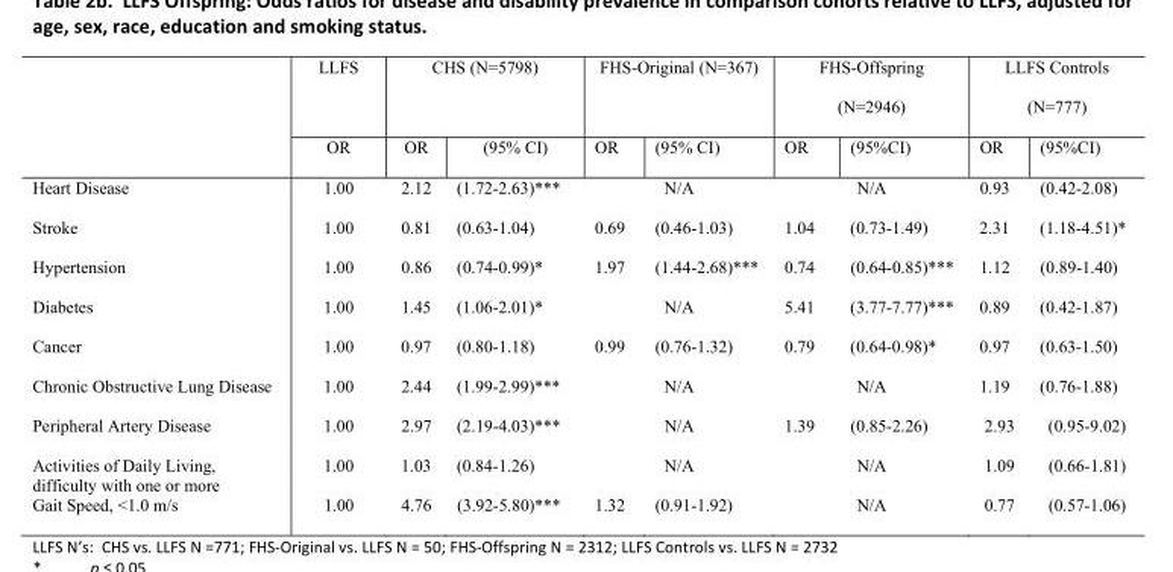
<table><thead><tr><td rowspan="2"></td><td rowspan="2">LLFS OR</td><td colspan="2">CHS (N=5798)</td><td colspan="2">FHS-Original (N=367)</td><td colspan="2">FHS-Offspring (N=2946)</td><td colspan="2">LLFS Controls (N=777)</td></tr><tr><td>OR</td><td>(95% CI)</td><td>OR</td><td>(95% CI)</td><td>OR</td><td>(95%CI)</td><td>OR</td><td>(95%CI)</td></tr></thead><tbody><tr><td>Heart Disease</td><td>1.00</td><td>2.12</td><td>(1.72-2.63)***</td><td></td><td>N/A</td><td></td><td>N/A</td><td>0.93</td><td>(0.42-2.08)</td></tr><tr><td>Stroke</td><td>1.00</td><td>0.81</td><td>(0.63-1.04)</td><td>0.69</td><td>(0.46-1.03)</td><td>1.04</td><td>(0.73-1.49)</td><td>2.31</td><td>(1.18-4.51)*</td></tr><tr><td>Hypertension</td><td>1.00</td><td>0.86</td><td>(0.74-0.99)*</td><td>1.97</td><td>(1.44-2.68)***</td><td>0.74</td><td>(0.64-0.85)***</td><td>1.12</td><td>(0.89-1.40)</td></tr><tr><td>Diabetes</td><td>1.00</td><td>1.45</td><td>(1.06-2.01)*</td><td></td><td>N/A</td><td>5.41</td><td>(3.77-7.77)***</td><td>0.89</td><td>(0.42-1.87)</td></tr><tr><td>Cancer</td><td>1.00</td><td>0.97</td><td>(0.80-1.18)</td><td>0.99</td><td>(0.76-1.32)</td><td>0.79</td><td>(0.64-0.98)*</td><td>0.97</td><td>(0.63-1.50)</td></tr><tr><td>Chronic Obstructive Lung Disease</td><td>1.00</td><td>2.44</td><td>(1.99-2.99)***</td><td></td><td>N/A</td><td></td><td>N/A</td><td>1.19</td><td>(0.76-1.88)</td></tr><tr><td>Peripheral Artery Disease</td><td>1.00</td><td>2.97</td><td>(2.19-4.03)***</td><td></td><td>N/A</td><td>1.39</td><td>(0.85-2.26)</td><td>2.93</td><td>(0.95-9.02)</td></tr><tr><td>Activities of Daily Living, difficulty with one or more</td><td>1.00</td><td>1.03</td><td>(0.84-1.26)</td><td></td><td>N/A</td><td></td><td>N/A</td><td>1.09</td><td>(0.66-1.81)</td></tr><tr><td>Gait Speed, &lt;1.0 m/s</td><td>1.00</td><td>4.76</td><td>(3.92-5.80)***</td><td>1.32</td><td>(0.91-1.92)</td><td></td><td>N/A</td><td>0.77</td><td>(0.57-1.06)</td></tr></tbody></table>